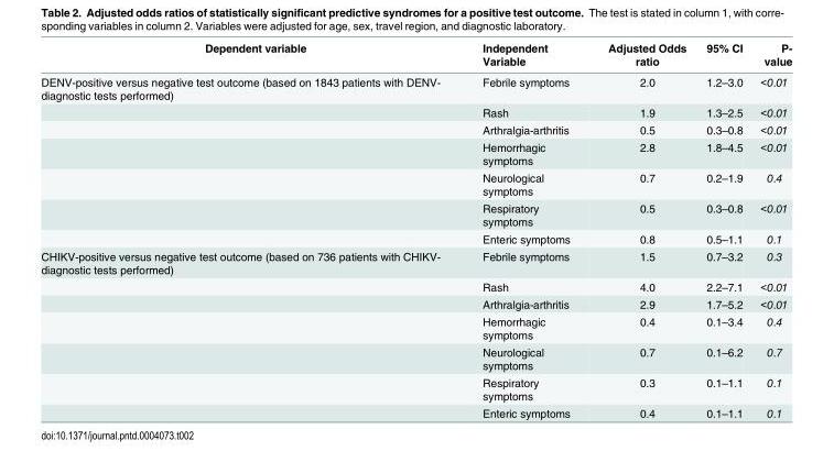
<table><thead><tr><td>Dependent variable</td><td>Independent Variable</td><td>Adjusted Odds ratio</td><td>95% CI</td><td>P- value</td></tr></thead><tbody><tr><td rowspan="7">DENV-positive versus negative test outcome (based on 1843 patients with DENV- diagnostic tests performed)</td><td>Febrile symptoms</td><td>2.0</td><td>1.2–3.0</td><td>&lt;0.01</td></tr><tr><td>Rash</td><td>1.9</td><td>1.3–2.5</td><td>&lt;0.01</td></tr><tr><td>Arthralgia-arthritis</td><td>0.5</td><td>0.3–0.8</td><td>&lt;0.01</td></tr><tr><td>Hemorrhagic symptoms</td><td>2.8</td><td>1.8–4.5</td><td>&lt;0.01</td></tr><tr><td>Neurological symptoms</td><td>0.7</td><td>0.2–1.9</td><td>0.4</td></tr><tr><td>Respiratory symptoms</td><td>0.5</td><td>0.3–0.8</td><td>&lt;0.01</td></tr><tr><td>Enteric symptoms</td><td>0.8</td><td>0.5–1.1</td><td>0.1</td></tr><tr><td rowspan="7">CHIKV-positive versus negative test outcome (based on 736 patients with CHIKV- diagnostic tests performed)</td><td>Febrile symptoms</td><td>1.5</td><td>0.7–3.2</td><td>0.3</td></tr><tr><td>Rash</td><td>4.0</td><td>2.2–7.1</td><td>&lt;0.01</td></tr><tr><td>Arthralgia-arthritis</td><td>2.9</td><td>1.7–5.2</td><td>&lt;0.01</td></tr><tr><td>Hemorrhagic symptoms</td><td>0.4</td><td>0.1–3.4</td><td>0.4</td></tr><tr><td>Neurological symptoms</td><td>0.7</td><td>0.1–6.2</td><td>0.7</td></tr><tr><td>Respiratory symptoms</td><td>0.3</td><td>0.1–1.1</td><td>0.1</td></tr><tr><td>Enteric symptoms</td><td>0.4</td><td>0.1–1.1</td><td>0.1</td></tr></tbody></table>